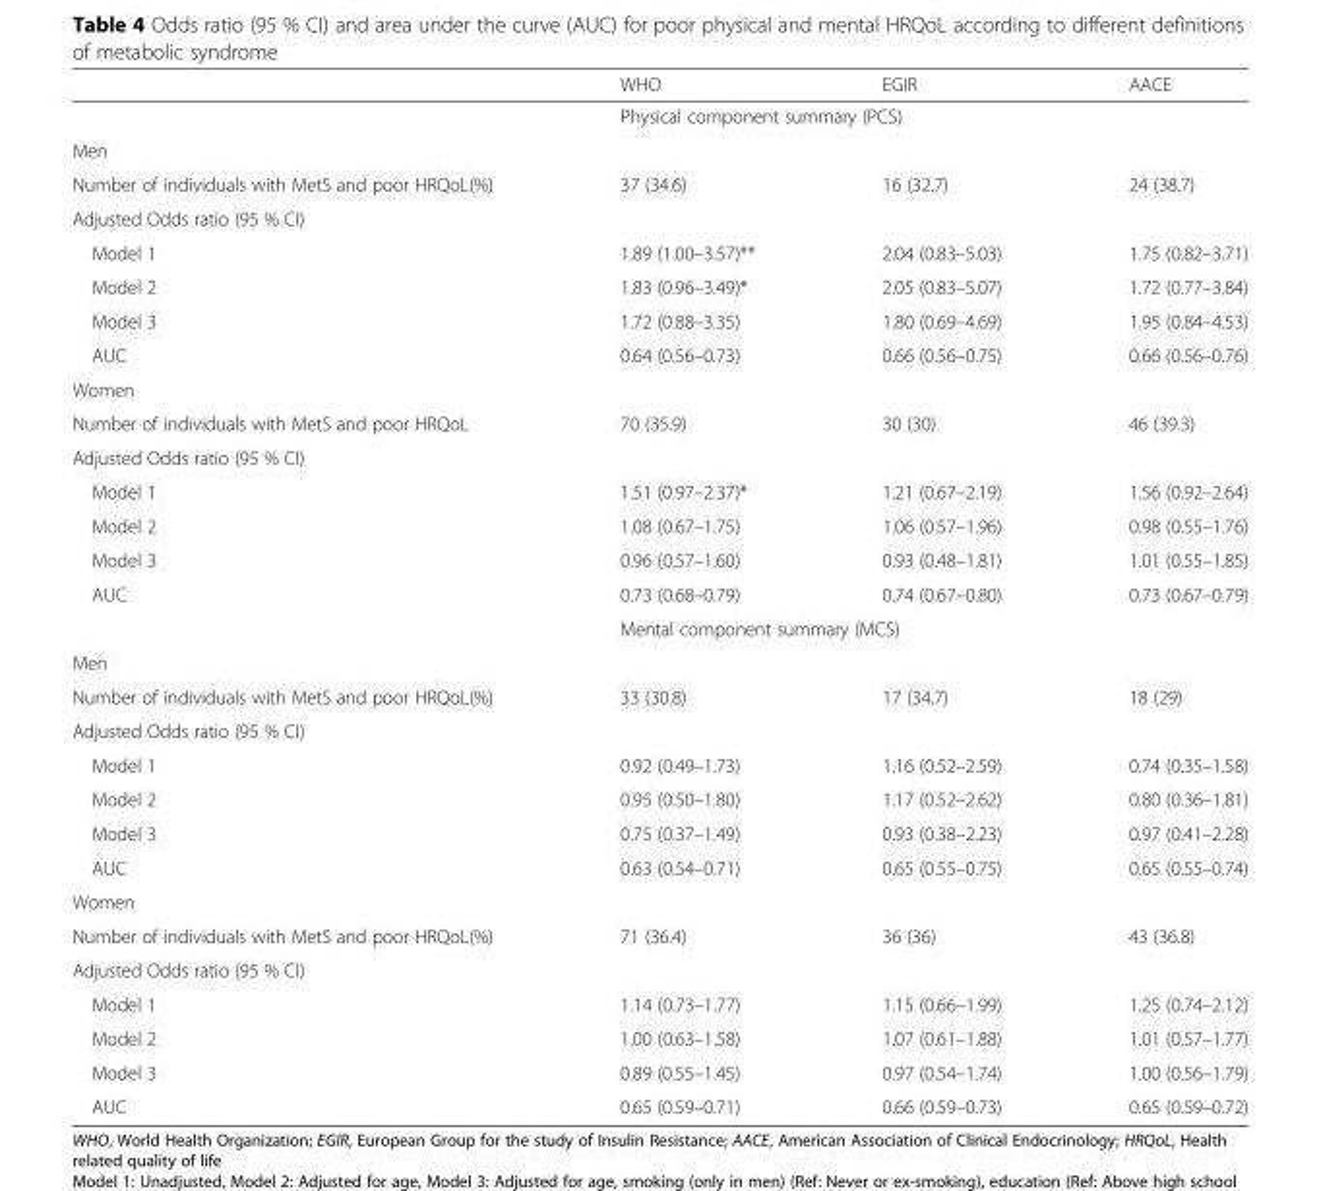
<table><thead><tr><td></td><td>WHO</td><td>EGIR</td><td>AACE</td></tr></thead><tbody><tr><td></td><td colspan="3">Physical component summary (PCS)</td></tr><tr><td colspan="4">Men</td></tr><tr><td>Number of individuals with MetS and poor HRQoL(%)</td><td>37 (34.6)</td><td>16 (32.7)</td><td>24 (38.7)</td></tr><tr><td colspan="4">Adjusted Odds ratio (95 % CI)</td></tr><tr><td>Model 1</td><td>1.89 (1.00–3.57)**</td><td>2.04 (0.83–5.03)</td><td>1.75 (0.82–3.71)</td></tr><tr><td>Model 2</td><td>1.83 (0.96–3.49)*</td><td>2.05 (0.83–5.07)</td><td>1.72 (0.77–3.84)</td></tr><tr><td>Model 3</td><td>1.72 (0.88–3.35)</td><td>1.80 (0.69–4.69)</td><td>1.95 (0.84–4.53)</td></tr><tr><td>AUC</td><td>0.64 (0.56–0.73)</td><td>0.66 (0.56–0.75)</td><td>0.66 (0.56–0.76)</td></tr><tr><td colspan="4">Women</td></tr><tr><td>Number of individuals with MetS and poor HRQoL</td><td>70 (35.9)</td><td>30 (30)</td><td>46 (39.3)</td></tr><tr><td colspan="4">Adjusted Odds ratio (95 % CI)</td></tr><tr><td>Model 1</td><td>1.51 (0.97–2.37)*</td><td>1.21 (0.67–2.19)</td><td>1.56 (0.92–2.64)</td></tr><tr><td>Model 2</td><td>1.08 (0.67–1.75)</td><td>1.06 (0.57–1.96)</td><td>0.98 (0.55–1.76)</td></tr><tr><td>Model 3</td><td>0.96 (0.57–1.60)</td><td>0.93 (0.48–1.81)</td><td>1.01 (0.55–1.85)</td></tr><tr><td rowspan="2">AUC</td><td>0.73 (0.68–0.79)</td><td>0.74 (0.67–0.80)</td><td>0.73 (0.67–0.79)</td></tr><tr><td colspan="3">Mental component summary (MCS)</td></tr><tr><td colspan="4">Men</td></tr><tr><td>Number of individuals with MetS and poor HRQoL(%)</td><td>33 (30.8)</td><td>17 (34.7)</td><td>18 (29)</td></tr><tr><td colspan="4">Adjusted Odds ratio (95 % CI)</td></tr><tr><td>Model 1</td><td>0.92 (0.49–1.73)</td><td>1.16 (0.52–2.59)</td><td>0.74 (0.35–1.58)</td></tr><tr><td>Model 2</td><td>0.95 (0.50–1.80)</td><td>1.17 (0.52–2.62)</td><td>0.80 (0.36–1.81)</td></tr><tr><td>Model 3</td><td>0.75 (0.37–1.49)</td><td>0.93 (0.38–2.23)</td><td>0.97 (0.41–2.28)</td></tr><tr><td>AUC</td><td>0.63 (0.54–0.71)</td><td>0.65 (0.55–0.75)</td><td>0.65 (0.55–0.74)</td></tr><tr><td colspan="4">Women</td></tr><tr><td>Number of individuals with MetS and poor HRQoL(%)</td><td>71 (36.4)</td><td>36 (36)</td><td>43 (36.8)</td></tr><tr><td colspan="4">Adjusted Odds ratio (95 % CI)</td></tr><tr><td>Model 1</td><td>1.14 (0.73–1.77)</td><td>1.15 (0.66–1.99)</td><td>1.25 (0.74–2.12)</td></tr><tr><td>Model 2</td><td>1.00 (0.63–1.58)</td><td>1.07 (0.61–1.88)</td><td>1.01 (0.57–1.77)</td></tr><tr><td>Model 3</td><td>0.89 (0.55–1.45)</td><td>0.97 (0.54–1.74)</td><td>1.00 (0.56–1.79)</td></tr><tr><td>AUC</td><td>0.65 (0.59–0.71)</td><td>0.66 (0.59–0.73)</td><td>0.65 (0.59–0.72)</td></tr></tbody></table>